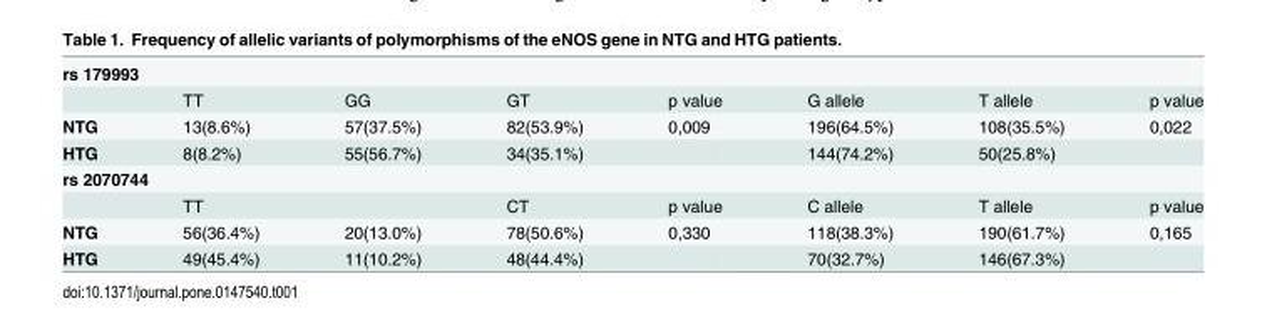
<table><tbody><tr><td colspan="8">rs 179993</td></tr><tr><td></td><td>TT</td><td>GG</td><td>GT</td><td>p value</td><td>G allele</td><td>T allele</td><td>p value</td></tr><tr><td>NTG</td><td>13(8.6%)</td><td>57(37.5%)</td><td>82(53.9%)</td><td>0,009</td><td>196(64.5%)</td><td>108(35.5%)</td><td>0,022</td></tr><tr><td>HTG</td><td>8(8.2%)</td><td>55(56.7%)</td><td>34(35.1%)</td><td></td><td>144(74.2%)</td><td>50(25.8%)</td><td></td></tr><tr><td colspan="8">rs 2070744</td></tr><tr><td></td><td>TT</td><td></td><td>CT</td><td>p value</td><td>C allele</td><td>T allele</td><td>p value</td></tr><tr><td>NTG</td><td>56(36.4%)</td><td>20(13.0%)</td><td>78(50.6%)</td><td>0,330</td><td>118(38.3%)</td><td>190(61.7%)</td><td>0,165</td></tr><tr><td>HTG</td><td>49(45.4%)</td><td>11(10.2%)</td><td>48(44.4%)</td><td></td><td>70(32.7%)</td><td>146(67.3%)</td><td></td></tr></tbody></table>